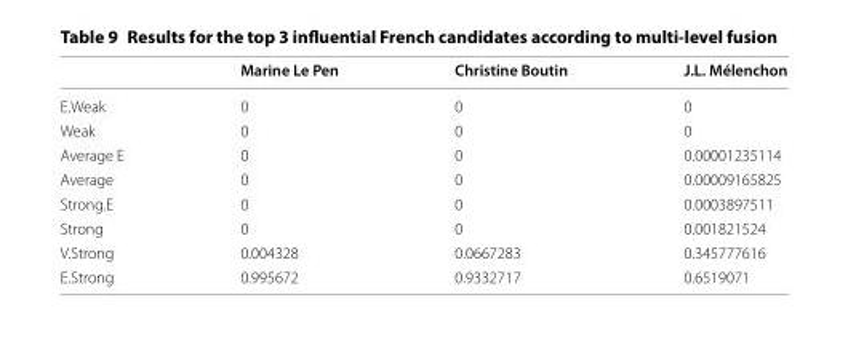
<table><thead><tr><td></td><td>Marine Le Pen</td><td>Christine Boutin</td><td>J.L. Mélenchon</td></tr></thead><tbody><tr><td>E.Weak</td><td>0</td><td>0</td><td>0</td></tr><tr><td>Weak</td><td>0</td><td>0</td><td>0</td></tr><tr><td>Average E</td><td>0</td><td>0</td><td>0.00001235114</td></tr><tr><td>Average</td><td>0</td><td>0</td><td>0.00009165825</td></tr><tr><td>Strong.E</td><td>0</td><td>0</td><td>0.0003897511</td></tr><tr><td>Strong</td><td>0</td><td>0</td><td>0.001821524</td></tr><tr><td>V.Strong</td><td>0.004328</td><td>0.0667283</td><td>0.345777616</td></tr><tr><td>E.Strong</td><td>0.995672</td><td>0.9332717</td><td>0.6519071</td></tr></tbody></table>